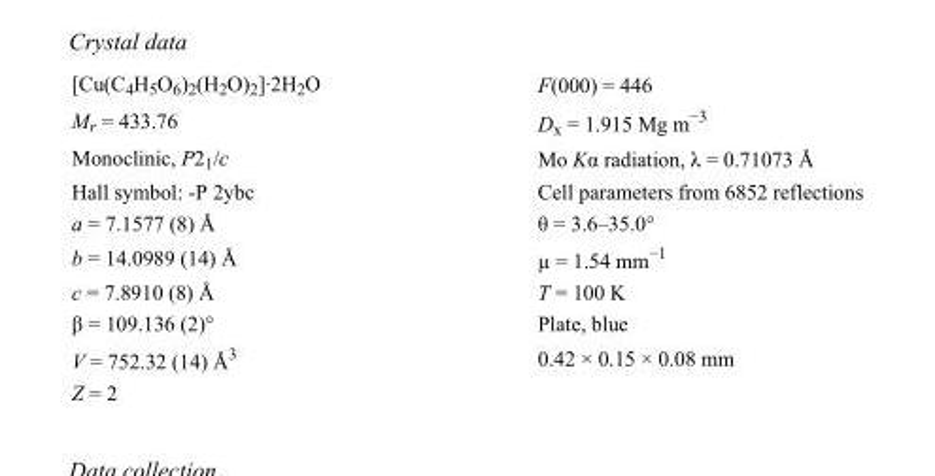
<table><tbody><tr><td>[Cu(C<sub>4</sub>H<sub>5</sub>O<sub>6</sub>)<sub>2</sub>(H<sub>2</sub>O)<sub>2</sub>]·2H<sub>2</sub>O</td><td>F(000) = 446</td></tr><tr><td>M<sub>r</sub> = 433.76</td><td>D<sub>x</sub> = 1.915 Mg m<sup>−3</sup></td></tr><tr><td>Monoclinic, P2<sub>1</sub>/c</td><td>Mo Kα radiation, λ = 0.71073 Å</td></tr><tr><td>Hall symbol: -P 2ybc</td><td>Cell parameters from 6852 reflections</td></tr><tr><td>a = 7.1577 (8) Å</td><td>θ = 3.6–35.0°</td></tr><tr><td>b = 14.0989 (14) Å</td><td>µ = 1.54 mm<sup>−1</sup></td></tr><tr><td>c = 7.8910 (8) Å</td><td>T = 100 K</td></tr><tr><td>β = 109.136 (2)°</td><td>Plate, blue</td></tr><tr><td>V = 752.32 (14) Å<sup>3</sup></td><td>0.42 × 0.15 × 0.08 mm</td></tr><tr><td>Z = 2</td><td></td></tr></tbody></table>